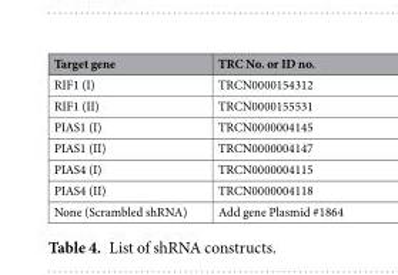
<table><thead><tr><td>Target gene</td><td>TRC No. or ID no.</td></tr></thead><tbody><tr><td>RIF1 (I)</td><td>TRCN0000154312</td></tr><tr><td>RIF1 (II)</td><td>TRCN0000155531</td></tr><tr><td>PIAS1 (I)</td><td>TRCN0000004145</td></tr><tr><td>PIAS1 (II)</td><td>TRCN0000004147</td></tr><tr><td>PIAS4 (I)</td><td>TRCN0000004115</td></tr><tr><td>PIAS4 (II)</td><td>TRCN0000004118</td></tr><tr><td>None (Scrambled shRNA)</td><td>Add gene Plasmid #1864</td></tr></tbody></table>